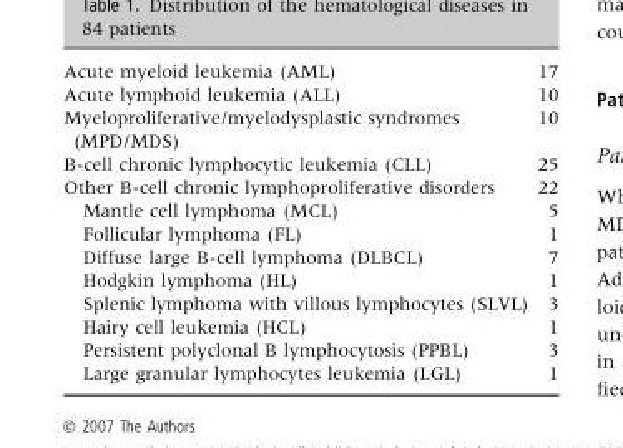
<table><tbody><tr><td>Acute myeloid leukemia (AML)</td><td>17</td></tr><tr><td>Acute lymphoid leukemia (ALL)</td><td>10</td></tr><tr><td>Myeloproliferative/myelodysplastic syndromes (MPD/MDS)</td><td>10</td></tr><tr><td>B-cell chronic lymphocytic leukemia (CLL)</td><td>25</td></tr><tr><td>Other B-cell chronic lymphoproliferative disorders</td><td>22</td></tr><tr><td>Mantle cell lymphoma (MCL)</td><td>5</td></tr><tr><td>Follicular lymphoma (FL)</td><td>1</td></tr><tr><td>Diffuse large B-cell lymphoma (DLBCL)</td><td>7</td></tr><tr><td>Hodgkin lymphoma (HL)</td><td>1</td></tr><tr><td>Splenic lymphoma with villous lymphocytes (SLVL)</td><td>3</td></tr><tr><td>Hairy cell leukemia (HCL)</td><td>1</td></tr><tr><td>Persistent polyclonal B lymphocytosis (PPBL)</td><td>3</td></tr><tr><td>Large granular lymphocytes leukemia (LGL)</td><td>1</td></tr></tbody></table>